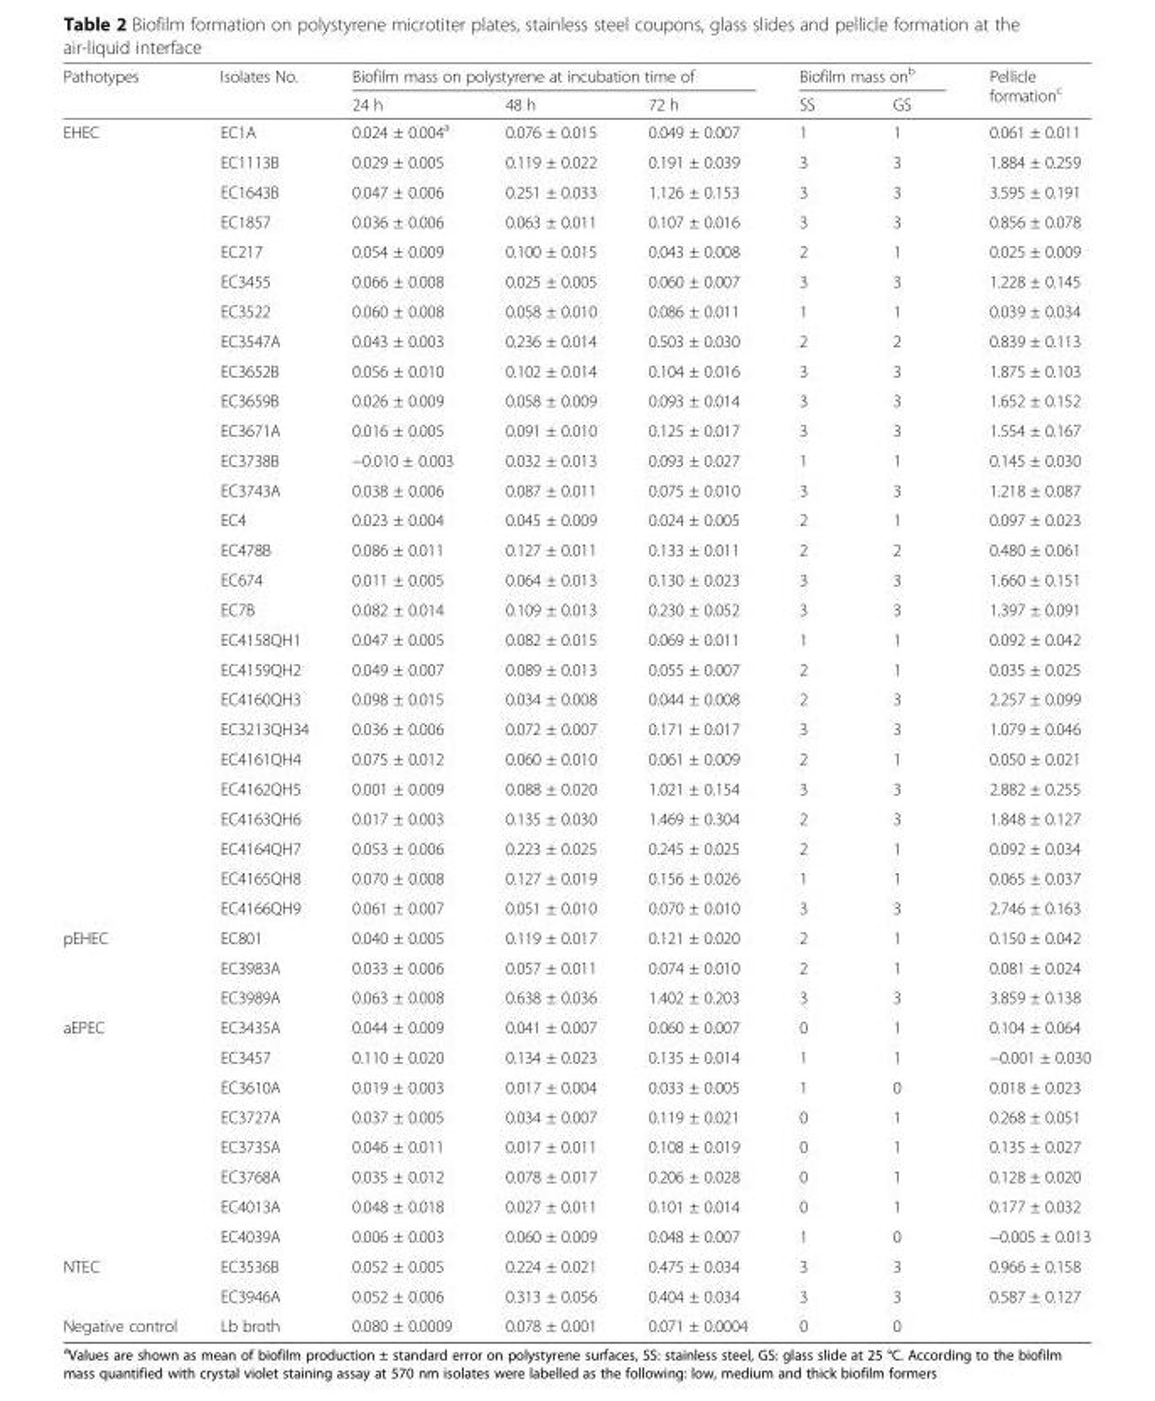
<table><thead><tr><td rowspan="2">Pathotypes</td><td rowspan="2">Isolates No.</td><td colspan="3">Biofilm mass on polystyrene at incubation time of</td><td colspan="2">Biofilm mass on<sup>b</sup></td><td rowspan="2">Pellicle formation<sup>c</sup></td></tr><tr><td>24 h</td><td>48 h</td><td>72 h</td><td>SS</td><td>GS</td></tr></thead><tbody><tr><td rowspan="27">EHEC</td><td>EC1A</td><td>0.024 ± 0.004<sup>a</sup></td><td>0.076 ± 0.015</td><td>0.049 ± 0.007</td><td>1</td><td>1</td><td>0.061 ± 0.011</td></tr><tr><td>EC1113B</td><td>0.029 ± 0.005</td><td>0.119 ± 0.022</td><td>0.191 ± 0.039</td><td>3</td><td>3</td><td>1.884 ± 0.259</td></tr><tr><td>EC1643B</td><td>0.047 ± 0.006</td><td>0.251 ± 0.033</td><td>1.126 ± 0.153</td><td>3</td><td>3</td><td>3.595 ± 0.191</td></tr><tr><td>EC1857</td><td>0.036 ± 0.006</td><td>0.063 ± 0.011</td><td>0.107 ± 0.016</td><td>3</td><td>3</td><td>0.856 ± 0.078</td></tr><tr><td>EC217</td><td>0.054 ± 0.009</td><td>0.100 ± 0.015</td><td>0.043 ± 0.008</td><td>2</td><td>1</td><td>0.025 ± 0.009</td></tr><tr><td>EC3455</td><td>0.066 ± 0.008</td><td>0.025 ± 0.005</td><td>0.060 ± 0.007</td><td>3</td><td>3</td><td>1.228 ± 0.145</td></tr><tr><td>EC3522</td><td>0.060 ± 0.008</td><td>0.058 ± 0.010</td><td>0.086 ± 0.011</td><td>1</td><td>1</td><td>0.039 ± 0.034</td></tr><tr><td>EC3547A</td><td>0.043 ± 0.003</td><td>0.236 ± 0.014</td><td>0.503 ± 0.030</td><td>2</td><td>2</td><td>0.839 ± 0.113</td></tr><tr><td>EC3652B</td><td>0.056 ± 0.010</td><td>0.102 ± 0.014</td><td>0.104 ± 0.016</td><td>3</td><td>3</td><td>1.875 ± 0.103</td></tr><tr><td>EC3659B</td><td>0.026 ± 0.009</td><td>0.058 ± 0.009</td><td>0.093 ± 0.014</td><td>3</td><td>3</td><td>1.652 ± 0.152</td></tr><tr><td>EC3671A</td><td>0.016 ± 0.005</td><td>0.091 ± 0.010</td><td>0.125 ± 0.017</td><td>3</td><td>3</td><td>1.554 ± 0.167</td></tr><tr><td>EC3738B</td><td>−0.010 ± 0.003</td><td>0.032 ± 0.013</td><td>0.093 ± 0.027</td><td>1</td><td>1</td><td>0.145 ± 0.030</td></tr><tr><td>EC3743A</td><td>0.038 ± 0.006</td><td>0.087 ± 0.011</td><td>0.075 ± 0.010</td><td>3</td><td>3</td><td>1.218 ± 0.087</td></tr><tr><td>EC4</td><td>0.023 ± 0.004</td><td>0.045 ± 0.009</td><td>0.024 ± 0.005</td><td>2</td><td>1</td><td>0.097 ± 0.023</td></tr><tr><td>EC478B</td><td>0.086 ± 0.011</td><td>0.127 ± 0.011</td><td>0.133 ± 0.011</td><td>2</td><td>2</td><td>0.480 ± 0.061</td></tr><tr><td>EC674</td><td>0.011 ± 0.005</td><td>0.064 ± 0.013</td><td>0.130 ± 0.023</td><td>3</td><td>3</td><td>1.660 ± 0.151</td></tr><tr><td>EC7B</td><td>0.082 ± 0.014</td><td>0.109 ± 0.013</td><td>0.230 ± 0.052</td><td>3</td><td>3</td><td>1.397 ± 0.091</td></tr><tr><td>EC4158QH1</td><td>0.047 ± 0.005</td><td>0.082 ± 0.015</td><td>0.069 ± 0.011</td><td>1</td><td>1</td><td>0.092 ± 0.042</td></tr><tr><td>EC4159QH2</td><td>0.049 ± 0.007</td><td>0.089 ± 0.013</td><td>0.055 ± 0.007</td><td>2</td><td>1</td><td>0.035 ± 0.025</td></tr><tr><td>EC4160QH3</td><td>0.098 ± 0.015</td><td>0.034 ± 0.008</td><td>0.044 ± 0.008</td><td>2</td><td>3</td><td>2.257 ± 0.099</td></tr><tr><td>EC3213QH34</td><td>0.036 ± 0.006</td><td>0.072 ± 0.007</td><td>0.171 ± 0.017</td><td>3</td><td>3</td><td>1.079 ± 0.046</td></tr><tr><td>EC4161QH4</td><td>0.075 ± 0.012</td><td>0.060 ± 0.010</td><td>0.061 ± 0.009</td><td>2</td><td>1</td><td>0.050 ± 0.021</td></tr><tr><td>EC4162QH5</td><td>0.001 ± 0.009</td><td>0.088 ± 0.020</td><td>1.021 ± 0.154</td><td>3</td><td>3</td><td>2.882 ± 0.255</td></tr><tr><td>EC4163QH6</td><td>0.017 ± 0.003</td><td>0.135 ± 0.030</td><td>1.469 ± 0.304</td><td>2</td><td>3</td><td>1.848 ± 0.127</td></tr><tr><td>EC4164QH7</td><td>0.053 ± 0.006</td><td>0.223 ± 0.025</td><td>0.245 ± 0.025</td><td>2</td><td>1</td><td>0.092 ± 0.034</td></tr><tr><td>EC4165QH8</td><td>0.070 ± 0.008</td><td>0.127 ± 0.019</td><td>0.156 ± 0.026</td><td>1</td><td>1</td><td>0.065 ± 0.037</td></tr><tr><td>EC4166QH9</td><td>0.061 ± 0.007</td><td>0.051 ± 0.010</td><td>0.070 ± 0.010</td><td>3</td><td>3</td><td>2.746 ± 0.163</td></tr><tr><td rowspan="3">pEHEC</td><td>EC801</td><td>0.040 ± 0.005</td><td>0.119 ± 0.017</td><td>0.121 ± 0.020</td><td>2</td><td>1</td><td>0.150 ± 0.042</td></tr><tr><td>EC3983A</td><td>0.033 ± 0.006</td><td>0.057 ± 0.011</td><td>0.074 ± 0.010</td><td>2</td><td>1</td><td>0.081 ± 0.024</td></tr><tr><td>EC3989A</td><td>0.063 ± 0.008</td><td>0.638 ± 0.036</td><td>1.402 ± 0.203</td><td>3</td><td>3</td><td>3.859 ± 0.138</td></tr><tr><td rowspan="8">aEPEC</td><td>EC3435A</td><td>0.044 ± 0.009</td><td>0.041 ± 0.007</td><td>0.060 ± 0.007</td><td>0</td><td>1</td><td>0.104 ± 0.064</td></tr><tr><td>EC3457</td><td>0.110 ± 0.020</td><td>0.134 ± 0.023</td><td>0.135 ± 0.014</td><td>1</td><td>1</td><td>−0.001 ± 0.030</td></tr><tr><td>EC3610A</td><td>0.019 ± 0.003</td><td>0.017 ± 0.004</td><td>0.033 ± 0.005</td><td>1</td><td>0</td><td>0.018 ± 0.023</td></tr><tr><td>EC3727A</td><td>0.037 ± 0.005</td><td>0.034 ± 0.007</td><td>0.119 ± 0.021</td><td>0</td><td>1</td><td>0.268 ± 0.051</td></tr><tr><td>EC3735A</td><td>0.046 ± 0.011</td><td>0.017 ± 0.011</td><td>0.108 ± 0.019</td><td>0</td><td>1</td><td>0.135 ± 0.027</td></tr><tr><td>EC3768A</td><td>0.035 ± 0.012</td><td>0.078 ± 0.017</td><td>0.206 ± 0.028</td><td>0</td><td>1</td><td>0.128 ± 0.020</td></tr><tr><td>EC4013A</td><td>0.048 ± 0.018</td><td>0.027 ± 0.011</td><td>0.101 ± 0.014</td><td>0</td><td>1</td><td>0.177 ± 0.032</td></tr><tr><td>EC4039A</td><td>0.006 ± 0.003</td><td>0.060 ± 0.009</td><td>0.048 ± 0.007</td><td>1</td><td>0</td><td>−0.005 ± 0.013</td></tr><tr><td rowspan="2">NTEC</td><td>EC3536B</td><td>0.052 ± 0.005</td><td>0.224 ± 0.021</td><td>0.475 ± 0.034</td><td>3</td><td>3</td><td>0.966 ± 0.158</td></tr><tr><td>EC3946A</td><td>0.052 ± 0.006</td><td>0.313 ± 0.056</td><td>0.404 ± 0.034</td><td>3</td><td>3</td><td>0.587 ± 0.127</td></tr><tr><td>Negative control</td><td>Lb broth</td><td>0.080 ± 0.0009</td><td>0.078 ± 0.001</td><td>0.071 ± 0.0004</td><td>0</td><td>0</td><td></td></tr></tbody></table>